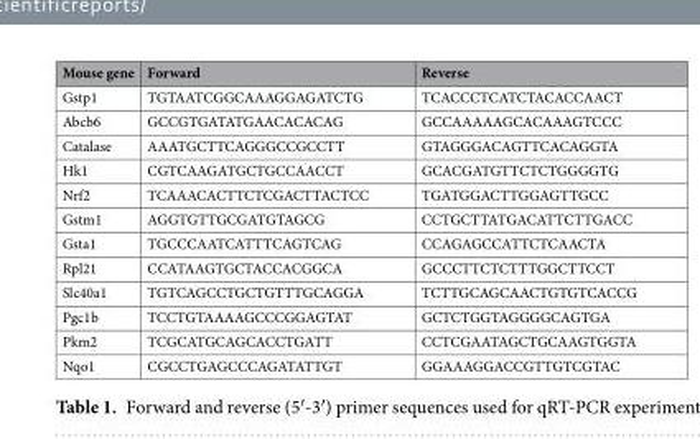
<table><thead><tr><td>Mouse gene</td><td>Forward</td><td>Reverse</td></tr></thead><tbody><tr><td>Gstp1</td><td>TGTAATCGGCAAAGGAGATCTG</td><td>TCACCCTCATCTACACCAACT</td></tr><tr><td>Abcb6</td><td>GCCGTGATATGAACACACAG</td><td>GCCAAAAAGCACAAAGTCCC</td></tr><tr><td>Catalase</td><td>AAATGCTTCAGGGCCGCCTT</td><td>GTAGGGACAGTTCACAGGTA</td></tr><tr><td>Hk1</td><td>CGTCAAGATGCTGCCAACCT</td><td>GCACGATGTTCTCTGGGGTG</td></tr><tr><td>Nrf2</td><td>TCAAACACTTCTCGACTTACTCC</td><td>TGATGGACTTGGAGTTGCC</td></tr><tr><td>Gstm1</td><td>AGGTGTTGCGATGTAGCG</td><td>CCTGCTTATGACATTCTTGACC</td></tr><tr><td>Gsta1</td><td>TGCCCAATCATTTCAGTCAG</td><td>CCAGAGCCATTCTCAACTA</td></tr><tr><td>Rpl21</td><td>CCATAAGTGCTACCACGGCA</td><td>GCCCTTCTCTTTGGCTTCCT</td></tr><tr><td>Slc40a1</td><td>TGTCAGCCTGCTGTTTGCAGGA</td><td>TCTTGCAGCAACTGTGTCACCG</td></tr><tr><td>Pgc1b</td><td>TCCTGTAAAAGCCCGGAGTAT</td><td>GCTCTGGTAGGGGCAGTGA</td></tr><tr><td>Pkm2</td><td>TCGCATGCAGCACCTGATT</td><td>CCTCGAATAGCTGCAAGTGGTA</td></tr><tr><td>Nqo1</td><td>CGCCTGAGCCCAGATATTGT</td><td>GGAAAGGACCGTTGTCGTAC</td></tr></tbody></table>